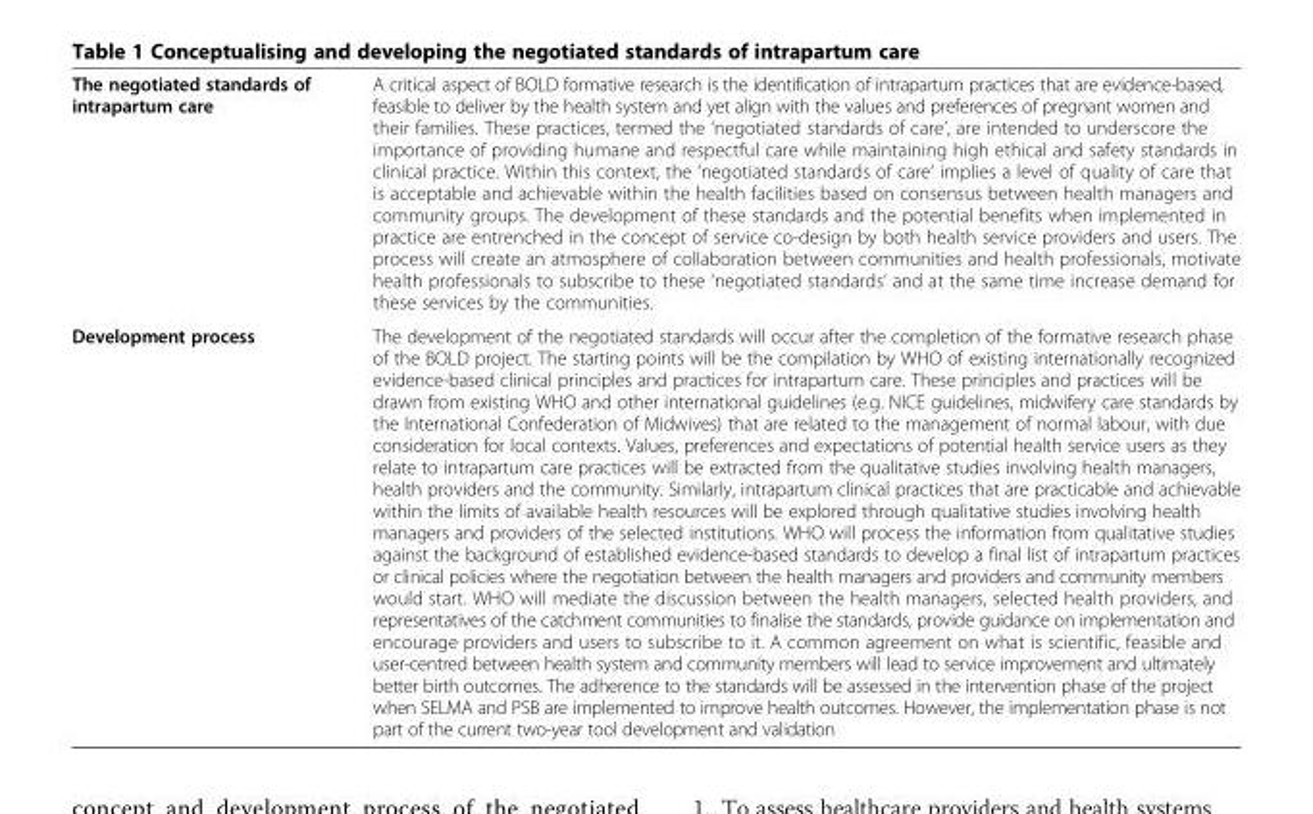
<table><tbody><tr><td>The negotiated standards of intrapartum care</td><td>A critical aspect of BOLD formative research is the identification of intrapartum practices that are evidence-based, feasible to deliver by the health system and yet align with the values and preferences of pregnant women and their families. These practices, termed the ‘negotiated standards of care’, are intended to underscore the importance of providing humane and respectful care while maintaining high ethical and safety standards in clinical practice. Within this context, the ‘negotiated standards of care’ implies a level of quality of care that is acceptable and achievable within the health facilities based on consensus between health managers and community groups. The development of these standards and the potential benefits when implemented in practice are entrenched in the concept of service co-design by both health service providers and users. The process will create an atmosphere of collaboration between communities and health professionals, motivate health professionals to subscribe to these ‘negotiated standards’ and at the same time increase demand for these services by the communities.</td></tr><tr><td>Development process</td><td>The development of the negotiated standards will occur after the completion of the formative research phase of the BOLD project. The starting points will be the compilation by WHO of existing internationally recognized evidence-based clinical principles and practices for intrapartum care. These principles and practices will be drawn from existing WHO and other international guidelines (e.g. NICE guidelines, midwifery care standards by the International Confederation of Midwives) that are related to the management of normal labour, with due consideration for local contexts. Values, preferences and expectations of potential health service users as they relate to intrapartum care practices will be extracted from the qualitative studies involving health managers, health providers and the community. Similarly, intrapartum clinical practices that are practicable and achievable within the limits of available health resources will be explored through qualitative studies involving health managers and providers of the selected institutions. WHO will process the information from qualitative studies against the background of established evidence-based standards to develop a final list of intrapartum practices or clinical policies where the negotiation between the health managers and providers and community members would start. WHO will mediate the discussion between the health managers, selected health providers, and representatives of the catchment communities to finalise the standards, provide guidance on implementation and encourage providers and users to subscribe to it. A common agreement on what is scientific, feasible and user-centred between health system and community members will lead to service improvement and ultimately better birth outcomes. The adherence to the standards will be assessed in the intervention phase of the project when SELMA and PSB are implemented to improve health outcomes. However, the implementation phase is not part of the current two-year tool development and validation</td></tr></tbody></table>